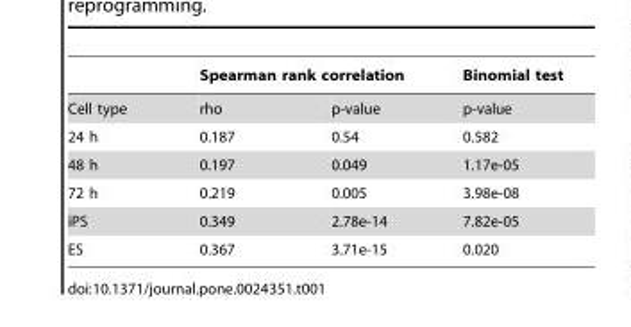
<table><thead><tr><td rowspan="2">Cell type</td><td colspan="2">Spearman rank correlation</td><td rowspan="2">Binomial test p-value</td></tr><tr><td>rho</td><td>p-value</td></tr></thead><tbody><tr><td>24 h</td><td>0.187</td><td>0.54</td><td>0.582</td></tr><tr><td>48 h</td><td>0.197</td><td>0.049</td><td>1.17e-05</td></tr><tr><td>72 h</td><td>0.219</td><td>0.005</td><td>3.98e-08</td></tr><tr><td>iPS</td><td>0.349</td><td>2.78e-14</td><td>7.82e-05</td></tr><tr><td>ES</td><td>0.367</td><td>3.71e-15</td><td>0.020</td></tr></tbody></table>